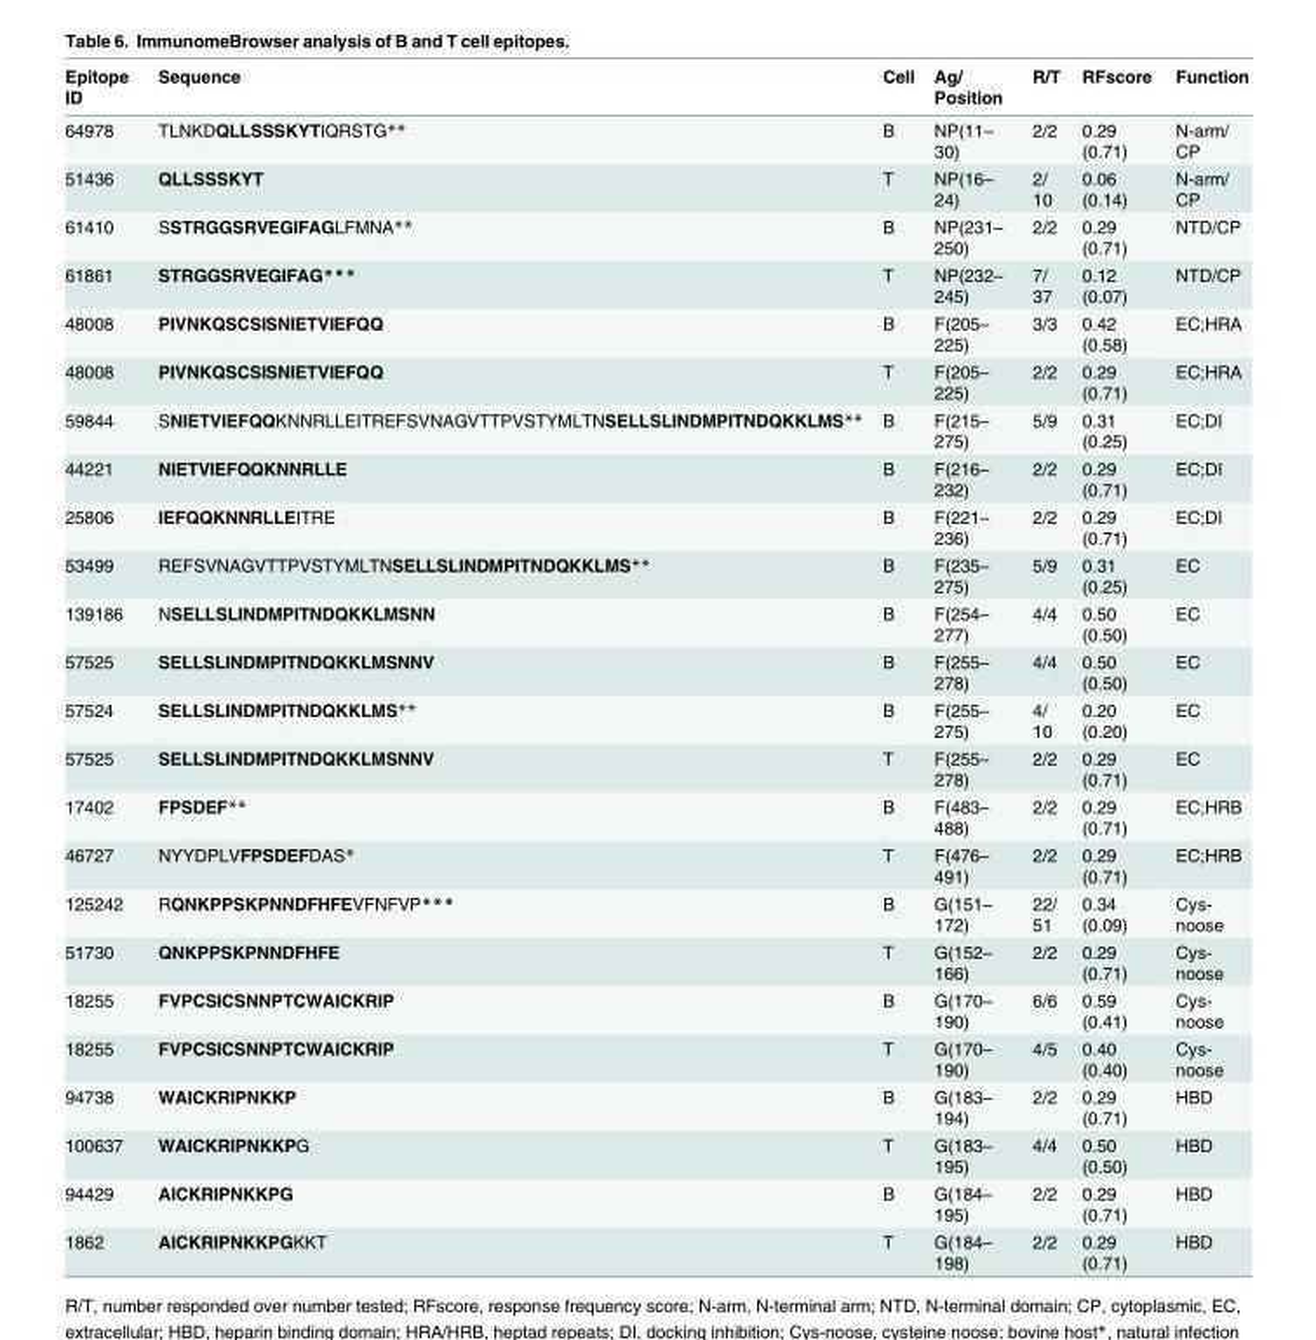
<table><thead><tr><td>Epitope ID</td><td>Sequence</td><td>Cell</td><td>Ag/ Position</td><td>R/T</td><td>RFscore</td><td>Function</td></tr></thead><tbody><tr><td>64978</td><td>TLNKDQLLSSSKYTIQRSTG**</td><td>B</td><td>NP(11– 30)</td><td>2/2</td><td>0.29 (0.71)</td><td>N-arm/ CP</td></tr><tr><td>51436</td><td>QLLSSSKYT</td><td>T</td><td>NP(16– 24)</td><td>2/ 10</td><td>0.06 (0.14)</td><td>N-arm/ CP</td></tr><tr><td>61410</td><td>SSTRGGSRVEGIFAGLFMNA**</td><td>B</td><td>NP(231– 250)</td><td>2/2</td><td>0.29 (0.71)</td><td>NTD/CP</td></tr><tr><td>61861</td><td>STRGGSRVEGIFAG***</td><td>T</td><td>NP(232– 245)</td><td>7/ 37</td><td>0.12 (0.07)</td><td>NTD/CP</td></tr><tr><td>48008</td><td>PIVNKQSCSISNIETVIEFQQ</td><td>B</td><td>F(205– 225)</td><td>3/3</td><td>0.42 (0.58)</td><td>EC;HRA</td></tr><tr><td>48008</td><td>PIVNKQSCSISNIETVIEFQQ</td><td>T</td><td>F(205– 225)</td><td>2/2</td><td>0.29 (0.71)</td><td>EC;HRA</td></tr><tr><td>59844</td><td>SNIETVIEFQQKNNRLLEITREFSVNAGVTTPVSTYMLTNSELLSLINDMPITNDQKKLMS**</td><td>B</td><td>F(215– 275)</td><td>5/9</td><td>0.31 (0.25)</td><td>EC;DI</td></tr><tr><td>44221</td><td>NIETVIEFQQKNNRLLE</td><td>B</td><td>F(216– 232)</td><td>2/2</td><td>0.29 (0.71)</td><td>EC;DI</td></tr><tr><td>25806</td><td>IEFQQKNNRLLEITRE</td><td>B</td><td>F(221– 236)</td><td>2/2</td><td>0.29 (0.71)</td><td>EC;DI</td></tr><tr><td>53499</td><td>REFSVNAGVTTPVSTYMLTNSELLSLINDMPITNDQKKLMS**</td><td>B</td><td>F(235– 275)</td><td>5/9</td><td>0.31 (0.25)</td><td>EC</td></tr><tr><td>139186</td><td>NSELLSLINDMPITNDQKKLMSNN</td><td>B</td><td>F(254– 277)</td><td>4/4</td><td>0.50 (0.50)</td><td>EC</td></tr><tr><td>57525</td><td>SELLSLINDMPITNDQKKLMSNNV</td><td>B</td><td>F(255– 278)</td><td>4/4</td><td>0.50 (0.50)</td><td>EC</td></tr><tr><td>57524</td><td>SELLSLINDMPITNDQKKLMS**</td><td>B</td><td>F(255– 275)</td><td>4/ 10</td><td>0.20 (0.20)</td><td>EC</td></tr><tr><td>57525</td><td>SELLSLINDMPITNDQKKLMSNNV</td><td>T</td><td>F(255– 278)</td><td>2/2</td><td>0.29 (0.71)</td><td>EC</td></tr><tr><td>17402</td><td>FPSDEF**</td><td>B</td><td>F(483– 488)</td><td>2/2</td><td>0.29 (0.71)</td><td>EC;HRB</td></tr><tr><td>46727</td><td>NYYDPLVFPSDEFDAS*</td><td>T</td><td>F(476– 491)</td><td>2/2</td><td>0.29 (0.71)</td><td>EC;HRB</td></tr><tr><td>125242</td><td>RQNKPPSKPNNDFHFEVFNFVP***</td><td>B</td><td>G(151– 172)</td><td>22/ 51</td><td>0.34 (0.09)</td><td>Cys- noose</td></tr><tr><td>51730</td><td>QNKPPSKPNNDFHFE</td><td>T</td><td>G(152– 166)</td><td>2/2</td><td>0.29 (0.71)</td><td>Cys- noose</td></tr><tr><td>18255</td><td>FVPCSICSNNPTCWAICKRIP</td><td>B</td><td>G(170– 190)</td><td>6/6</td><td>0.59 (0.41)</td><td>Cys- noose</td></tr><tr><td>18255</td><td>FVPCSICSNNPTCWAICKRIP</td><td>T</td><td>G(170– 190)</td><td>4/5</td><td>0.40 (0.40)</td><td>Cys- noose</td></tr><tr><td>94738</td><td>WAICKRIPNKKP</td><td>B</td><td>G(183– 194)</td><td>2/2</td><td>0.29 (0.71)</td><td>HBD</td></tr><tr><td>100637</td><td>WAICKRIPNKKPG</td><td>T</td><td>G(183– 195)</td><td>4/4</td><td>0.50 (0.50)</td><td>HBD</td></tr><tr><td>94429</td><td>AICKRIPNKKPG</td><td>B</td><td>G(184– 195)</td><td>2/2</td><td>0.29 (0.71)</td><td>HBD</td></tr><tr><td>1862</td><td>AICKRIPNKKPGKKT</td><td>T</td><td>G(184– 198)</td><td>2/2</td><td>0.29 (0.71)</td><td>HBD</td></tr></tbody></table>